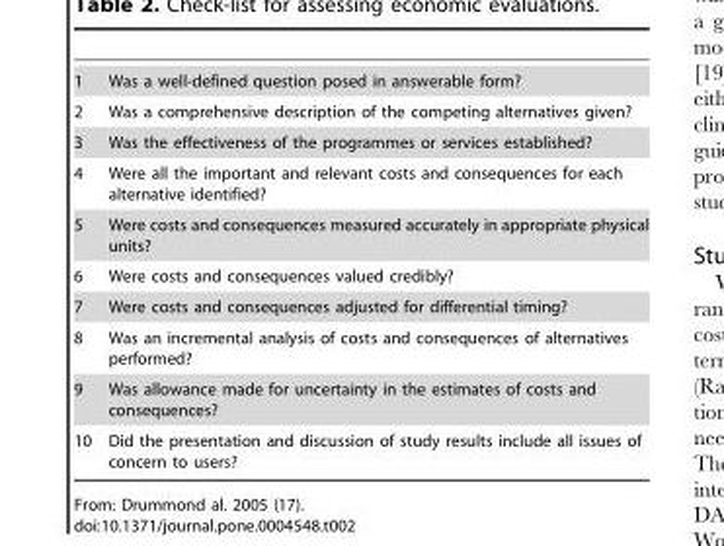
<table><tbody><tr><td>1</td><td>Was a well-defined question posed in answerable form?</td></tr><tr><td>2</td><td>Was a comprehensive description of the competing alternatives given?</td></tr><tr><td>3</td><td>Was the effectiveness of the programmes or services established?</td></tr><tr><td>4</td><td>Were all the important and relevant costs and consequences for each alternative identified?</td></tr><tr><td>5</td><td>Were costs and consequences measured accurately in appropriate physical units?</td></tr><tr><td>6</td><td>Were costs and consequences valued credibly?</td></tr><tr><td>7</td><td>Were costs and consequences adjusted for differential timing?</td></tr><tr><td>8</td><td>Was an incremental analysis of costs and consequences of alternatives performed?</td></tr><tr><td>9</td><td>Was allowance made for uncertainty in the estimates of costs and consequences?</td></tr><tr><td>10</td><td>Did the presentation and discussion of study results include all issues of concern to users?</td></tr></tbody></table>